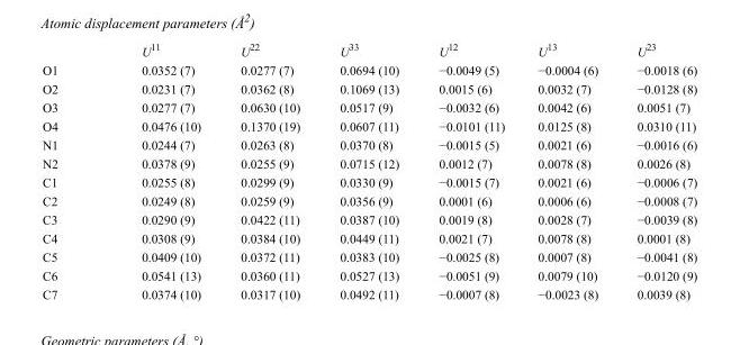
<table><thead><tr><td></td><td>U<sup>11</sup></td><td>U<sup>22</sup></td><td>U<sup>33</sup></td><td>U<sup>12</sup></td><td>U<sup>13</sup></td><td>U<sup>23</sup></td></tr></thead><tbody><tr><td>O1</td><td>0.0352 (7)</td><td>0.0277 (7)</td><td>0.0694 (10)</td><td>−0.0049 (5)</td><td>−0.0004 (6)</td><td>−0.0018 (6)</td></tr><tr><td>O2</td><td>0.0231 (7)</td><td>0.0362 (8)</td><td>0.1069 (13)</td><td>0.0015 (6)</td><td>0.0032 (7)</td><td>−0.0128 (8)</td></tr><tr><td>O3</td><td>0.0277 (7)</td><td>0.0630 (10)</td><td>0.0517 (9)</td><td>−0.0032 (6)</td><td>0.0042 (6)</td><td>0.0051 (7)</td></tr><tr><td>O4</td><td>0.0476 (10)</td><td>0.1370 (19)</td><td>0.0607 (11)</td><td>−0.0101 (11)</td><td>0.0125 (8)</td><td>0.0310 (11)</td></tr><tr><td>N1</td><td>0.0244 (7)</td><td>0.0263 (8)</td><td>0.0370 (8)</td><td>−0.0015 (5)</td><td>0.0021 (6)</td><td>−0.0016 (6)</td></tr><tr><td>N2</td><td>0.0378 (9)</td><td>0.0255 (9)</td><td>0.0715 (12)</td><td>0.0012 (7)</td><td>0.0078 (8)</td><td>0.0026 (8)</td></tr><tr><td>C1</td><td>0.0255 (8)</td><td>0.0299 (9)</td><td>0.0330 (9)</td><td>−0.0015 (7)</td><td>0.0021 (6)</td><td>−0.0006 (7)</td></tr><tr><td>C2</td><td>0.0249 (8)</td><td>0.0259 (9)</td><td>0.0356 (9)</td><td>0.0001 (6)</td><td>0.0006 (6)</td><td>−0.0008 (7)</td></tr><tr><td>C3</td><td>0.0290 (9)</td><td>0.0422 (11)</td><td>0.0387 (10)</td><td>0.0019 (8)</td><td>0.0028 (7)</td><td>−0.0039 (8)</td></tr><tr><td>C4</td><td>0.0308 (9)</td><td>0.0384 (10)</td><td>0.0449 (11)</td><td>0.0021 (7)</td><td>0.0078 (8)</td><td>0.0001 (8)</td></tr><tr><td>C5</td><td>0.0409 (10)</td><td>0.0372 (11)</td><td>0.0383 (10)</td><td>−0.0025 (8)</td><td>0.0007 (8)</td><td>−0.0041 (8)</td></tr><tr><td>C6</td><td>0.0541 (13)</td><td>0.0360 (11)</td><td>0.0527 (13)</td><td>−0.0051 (9)</td><td>0.0079 (10)</td><td>−0.0120 (9)</td></tr><tr><td>C7</td><td>0.0374 (10)</td><td>0.0317 (10)</td><td>0.0492 (11)</td><td>−0.0007 (8)</td><td>−0.0023 (8)</td><td>0.0039 (8)</td></tr></tbody></table>